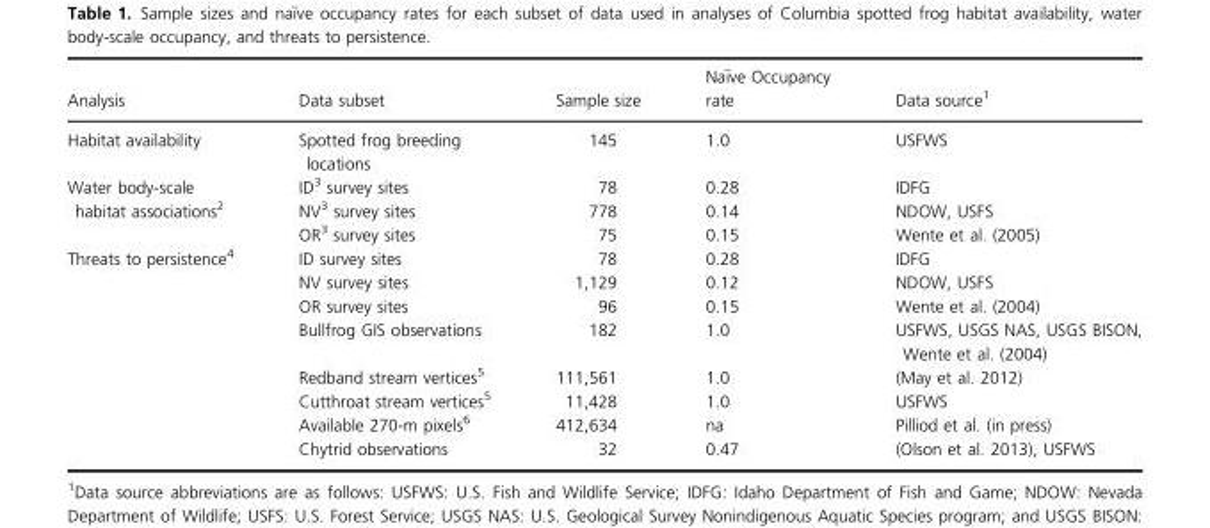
<table><thead><tr><td>Analysis</td><td>Data subset</td><td>Sample size</td><td>Na€ıve Occupancy rate</td><td>Data source<sup>1</sup></td></tr></thead><tbody><tr><td>Habitat availability</td><td>Spotted frog breeding locations</td><td>145</td><td>1.0</td><td>USFWS</td></tr><tr><td rowspan="3">Water body-scale habitat associations<sup>2</sup></td><td>ID<sup>3</sup> survey sites</td><td>78</td><td>0.28</td><td>IDFG</td></tr><tr><td>NV<sup>3</sup> survey sites</td><td>778</td><td>0.14</td><td>NDOW, USFS</td></tr><tr><td>OR<sup>3</sup> survey sites</td><td>75</td><td>0.15</td><td>Wente et al. (2005)</td></tr><tr><td rowspan="8">Threats to persistence<sup>4</sup></td><td>ID survey sites</td><td>78</td><td>0.28</td><td>IDFG</td></tr><tr><td>NV survey sites</td><td>1,129</td><td>0.12</td><td>NDOW, USFS</td></tr><tr><td>OR survey sites</td><td>96</td><td>0.15</td><td>Wente et al. (2004)</td></tr><tr><td>Bullfrog GIS observations</td><td>182</td><td>1.0</td><td>USFWS, USGS NAS, USGS BISON, Wente et al. (2004)</td></tr><tr><td>Redband stream vertices<sup>5</sup></td><td>111,561</td><td>1.0</td><td>(May et al. 2012)</td></tr><tr><td>Cutthroat stream vertices<sup>5</sup></td><td>11,428</td><td>1.0</td><td>USFWS</td></tr><tr><td>Available 270-m pixels<sup>6</sup></td><td>412,634</td><td>na</td><td>Pilliod et al. (in press)</td></tr><tr><td>Chytrid observations</td><td>32</td><td>0.47</td><td>(Olson et al. 2013), USFWS</td></tr></tbody></table>